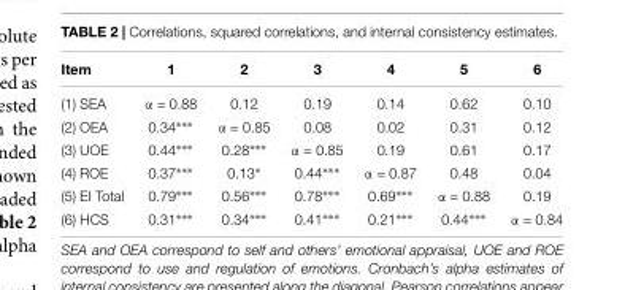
<table><thead><tr><td>Item</td><td>1</td><td>2</td><td>3</td><td>4</td><td>5</td><td>6</td></tr></thead><tbody><tr><td>(1) SEA</td><td>α = 0.88</td><td>0.12</td><td>0.19</td><td>0.14</td><td>0.62</td><td>0.10</td></tr><tr><td>(2) OEA</td><td>0.34∗∗∗</td><td>α = 0.85</td><td>0.08</td><td>0.02</td><td>0.31</td><td>0.12</td></tr><tr><td>(3) UOE</td><td>0.44∗∗∗</td><td>0.28∗∗∗</td><td>α = 0.85</td><td>0.19</td><td>0.61</td><td>0.17</td></tr><tr><td>(4) ROE</td><td>0.37∗∗∗</td><td>0.13∗</td><td>0.44∗∗∗</td><td>α = 0.87</td><td>0.48</td><td>0.04</td></tr><tr><td>(5) EI Total</td><td>0.79∗∗∗</td><td>0.56∗∗∗</td><td>0.78∗∗∗</td><td>0.69∗∗∗</td><td>α = 0.88</td><td>0.19</td></tr><tr><td>(6) HCS</td><td>0.31∗∗∗</td><td>0.34∗∗∗</td><td>0.41∗∗∗</td><td>0.21∗∗∗</td><td>0.44∗∗∗</td><td>α = 0.84</td></tr></tbody></table>